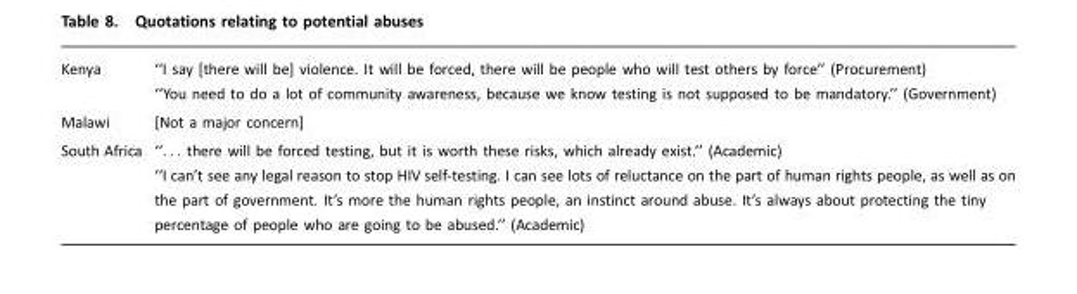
<table><tbody><tr><td>Kenya</td><td>‘‘I say [there will be] violence. It will be forced, there will be people who will test others by force’’ (Procurement) ‘‘You need to do a lot of community awareness, because we know testing is not supposed to be mandatory.’’ (Government)</td></tr><tr><td>Malawi</td><td>[Not a major concern]</td></tr><tr><td>South Africa</td><td>‘‘. . . there will be forced testing, but it is worth these risks, which already exist.’’ (Academic) ‘‘I can’t see any legal reason to stop HIV self-testing. I can see lots of reluctance on the part of human rights people, as well as on the part of government. It’s more the human rights people, an instinct around abuse. It’s always about protecting the tiny percentage of people who are going to be abused.’’ (Academic)</td></tr></tbody></table>